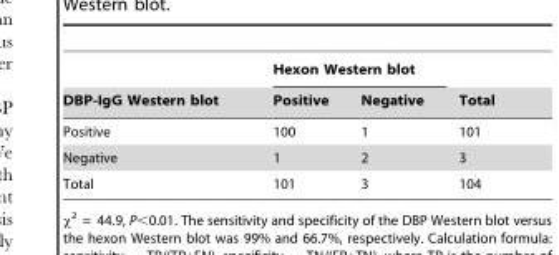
<table><thead><tr><td rowspan="2">DBP-IgG Western blot</td><td colspan="2">Hexon Western blot</td><td rowspan="2">Total</td></tr><tr><td>Positive</td><td>Negative</td></tr></thead><tbody><tr><td>Positive</td><td>100</td><td>1</td><td>101</td></tr><tr><td>Negative</td><td>1</td><td>2</td><td>3</td></tr><tr><td>Total</td><td>101</td><td>3</td><td>104</td></tr></tbody></table>